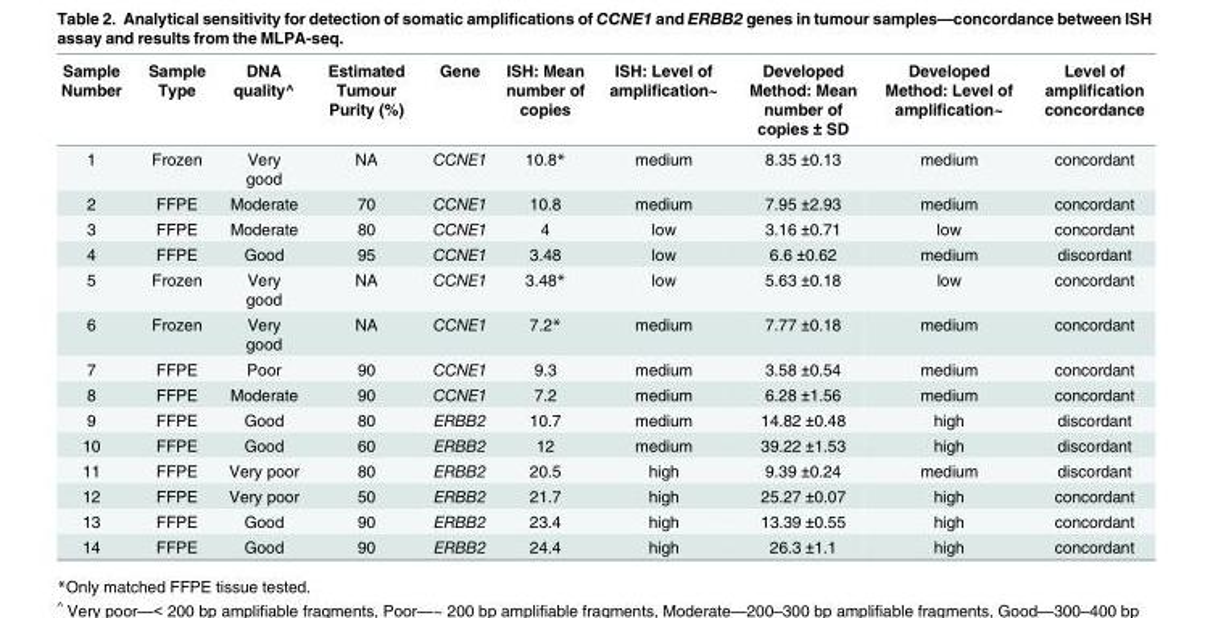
<table><thead><tr><td>Sample Number</td><td>Sample Type</td><td>DNA quality^</td><td>Estimated Tumour Purity (%)</td><td>Gene</td><td>ISH: Mean number of copies</td><td>ISH: Level of amplification~</td><td>Developed Method: Mean number of copies ± SD</td><td>Developed Method: Level of amplification~</td><td>Level of amplification concordance</td></tr></thead><tbody><tr><td>1</td><td>Frozen</td><td>Very good</td><td>NA</td><td>CCNE1</td><td>10.8*</td><td>medium</td><td>8.35 ±0.13</td><td>medium</td><td>concordant</td></tr><tr><td>2</td><td>FFPE</td><td>Moderate</td><td>70</td><td>CCNE1</td><td>10.8</td><td>medium</td><td>7.95 ±2.93</td><td>medium</td><td>concordant</td></tr><tr><td>3</td><td>FFPE</td><td>Moderate</td><td>80</td><td>CCNE1</td><td>4</td><td>low</td><td>3.16 ±0.71</td><td>low</td><td>concordant</td></tr><tr><td>4</td><td>FFPE</td><td>Good</td><td>95</td><td>CCNE1</td><td>3.48</td><td>low</td><td>6.6 ±0.62</td><td>medium</td><td>discordant</td></tr><tr><td>5</td><td>Frozen</td><td>Very good</td><td>NA</td><td>CCNE1</td><td>3.48*</td><td>low</td><td>5.63 ±0.18</td><td>low</td><td>concordant</td></tr><tr><td>6</td><td>Frozen</td><td>Very good</td><td>NA</td><td>CCNE1</td><td>7.2*</td><td>medium</td><td>7.77 ±0.18</td><td>medium</td><td>concordant</td></tr><tr><td>7</td><td>FFPE</td><td>Poor</td><td>90</td><td>CCNE1</td><td>9.3</td><td>medium</td><td>3.58 ±0.54</td><td>medium</td><td>concordant</td></tr><tr><td>8</td><td>FFPE</td><td>Moderate</td><td>90</td><td>CCNE1</td><td>7.2</td><td>medium</td><td>6.28 ±1.56</td><td>medium</td><td>concordant</td></tr><tr><td>9</td><td>FFPE</td><td>Good</td><td>80</td><td>ERBB2</td><td>10.7</td><td>medium</td><td>14.82 ±0.48</td><td>high</td><td>discordant</td></tr><tr><td>10</td><td>FFPE</td><td>Good</td><td>60</td><td>ERBB2</td><td>12</td><td>medium</td><td>39.22 ±1.53</td><td>high</td><td>discordant</td></tr><tr><td>11</td><td>FFPE</td><td>Very poor</td><td>80</td><td>ERBB2</td><td>20.5</td><td>high</td><td>9.39 ±0.24</td><td>medium</td><td>discordant</td></tr><tr><td>12</td><td>FFPE</td><td>Very poor</td><td>50</td><td>ERBB2</td><td>21.7</td><td>high</td><td>25.27 ±0.07</td><td>high</td><td>concordant</td></tr><tr><td>13</td><td>FFPE</td><td>Good</td><td>90</td><td>ERBB2</td><td>23.4</td><td>high</td><td>13.39 ±0.55</td><td>high</td><td>concordant</td></tr><tr><td>14</td><td>FFPE</td><td>Good</td><td>90</td><td>ERBB2</td><td>24.4</td><td>high</td><td>26.3 ±1.1</td><td>high</td><td>concordant</td></tr></tbody></table>